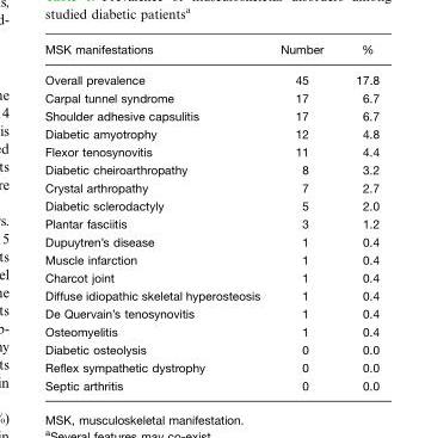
<table><thead><tr><td>MSK manifestations</td><td>Number</td><td>%</td></tr></thead><tbody><tr><td>Overall prevalence</td><td>45</td><td>17.8</td></tr><tr><td>Carpal tunnel syndrome</td><td>17</td><td>6.7</td></tr><tr><td>Shoulder adhesive capsulitis</td><td>17</td><td>6.7</td></tr><tr><td>Diabetic amyotrophy</td><td>12</td><td>4.8</td></tr><tr><td>Flexor tenosynovitis</td><td>11</td><td>4.4</td></tr><tr><td>Diabetic cheiroarthropathy</td><td>8</td><td>3.2</td></tr><tr><td>Crystal arthropathy</td><td>7</td><td>2.7</td></tr><tr><td>Diabetic sclerodactyly</td><td>5</td><td>2.0</td></tr><tr><td>Plantar fasciitis</td><td>3</td><td>1.2</td></tr><tr><td>Dupuytren’s disease</td><td>1</td><td>0.4</td></tr><tr><td>Muscle infarction</td><td>1</td><td>0.4</td></tr><tr><td>Charcot joint</td><td>1</td><td>0.4</td></tr><tr><td>Diffuse idiopathic skeletal hyperosteosis</td><td>1</td><td>0.4</td></tr><tr><td>De Quervain’s tenosynovitis</td><td>1</td><td>0.4</td></tr><tr><td>Osteomyelitis</td><td>1</td><td>0.4</td></tr><tr><td>Diabetic osteolysis</td><td>0</td><td>0.0</td></tr><tr><td>Reflex sympathetic dystrophy</td><td>0</td><td>0.0</td></tr><tr><td>Septic arthritis</td><td>0</td><td>0.0</td></tr></tbody></table>